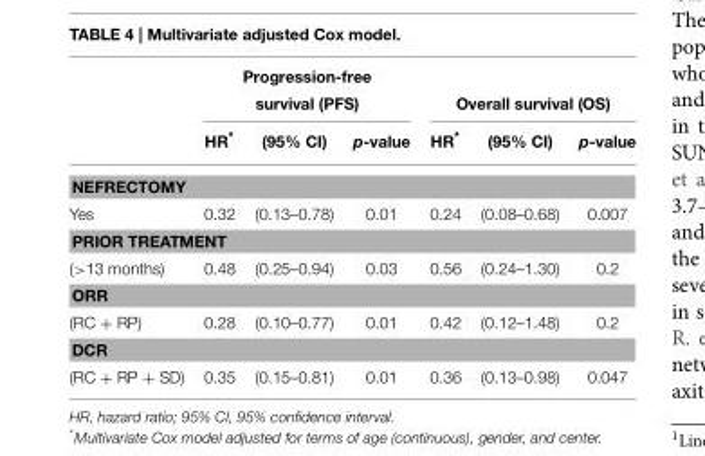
<table><thead><tr><td rowspan="2"></td><td colspan="3">Progression-free survival (PFS)</td><td colspan="3">Overall survival (OS)</td></tr><tr><td>HR*</td><td>(95% CI)</td><td>p-value</td><td>HR*</td><td>(95% CI)</td><td>p-value</td></tr></thead><tbody><tr><td colspan="7">NEFRECTOMY</td></tr><tr><td>Yes</td><td>0.32</td><td>(0.13–0.78)</td><td>0.01</td><td>0.24</td><td>(0.08–0.68)</td><td>0.007</td></tr><tr><td colspan="7">PRIOR TREATMENT</td></tr><tr><td>(&gt;13 months)</td><td>0.48</td><td>(0.25–0.94)</td><td>0.03</td><td>0.56</td><td>(0.24–1.30)</td><td>0.2</td></tr><tr><td colspan="7">ORR</td></tr><tr><td>(RC + RP)</td><td>0.28</td><td>(0.10–0.77)</td><td>0.01</td><td>0.42</td><td>(0.12–1.48)</td><td>0.2</td></tr><tr><td colspan="7">DCR</td></tr><tr><td>(RC + RP + SD)</td><td>0.35</td><td>(0.15–0.81)</td><td>0.01</td><td>0.36</td><td>(0.13–0.98)</td><td>0.047</td></tr></tbody></table>